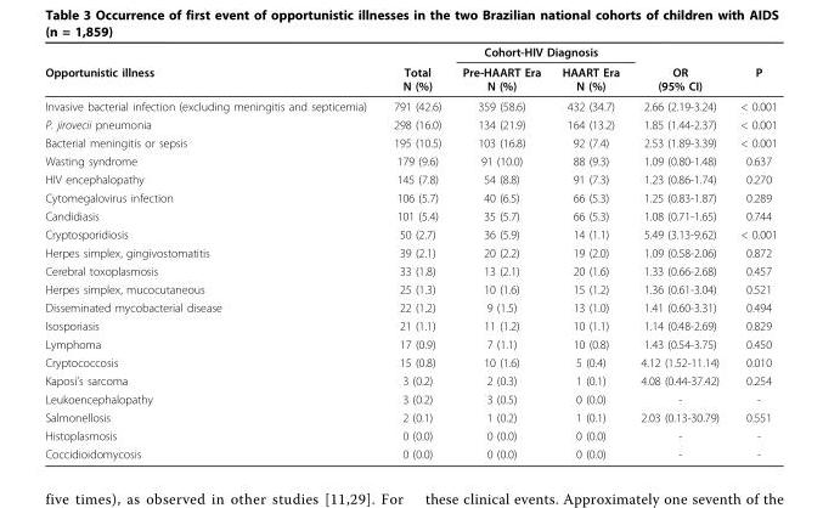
<table><thead><tr><td rowspan="2">Opportunistic illness</td><td rowspan="2">Total N (%)</td><td colspan="2">Cohort-HIV Diagnosis</td><td rowspan="2">OR (95% CI)</td><td rowspan="2">P</td></tr><tr><td>Pre-HAART Era N (%)</td><td>HAART Era N (%)</td></tr></thead><tbody><tr><td>Invasive bacterial infection (excluding meningitis and septicemia)</td><td>791 (42.6)</td><td>359 (58.6)</td><td>432 (34.7)</td><td>2.66 (2.19-3.24)</td><td>&lt; 0.001</td></tr><tr><td>P. jirovecii pneumonia</td><td>298 (16.0)</td><td>134 (21.9)</td><td>164 (13.2)</td><td>1.85 (1.44-2.37)</td><td>&lt; 0.001</td></tr><tr><td>Bacterial meningitis or sepsis</td><td>195 (10.5)</td><td>103 (16.8)</td><td>92 (7.4)</td><td>2.53 (1.89-3.39)</td><td>&lt; 0.001</td></tr><tr><td>Wasting syndrome</td><td>179 (9.6)</td><td>91 (10.0)</td><td>88 (9.3)</td><td>1.09 (0.80-1.48)</td><td>0.637</td></tr><tr><td>HIV encephalopathy</td><td>145 (7.8)</td><td>54 (8.8)</td><td>91 (7.3)</td><td>1.23 (0.86-1.74)</td><td>0.270</td></tr><tr><td>Cytomegalovirus infection</td><td>106 (5.7)</td><td>40 (6.5)</td><td>66 (5.3)</td><td>1.25 (0.83-1.87)</td><td>0.289</td></tr><tr><td>Candidiasis</td><td>101 (5.4)</td><td>35 (5.7)</td><td>66 (5.3)</td><td>1.08 (0.71-1.65)</td><td>0.744</td></tr><tr><td>Cryptosporidiosis</td><td>50 (2.7)</td><td>36 (5.9)</td><td>14 (1.1)</td><td>5.49 (3.13-9.62)</td><td>&lt; 0.001</td></tr><tr><td>Herpes simplex, gingivostomatitis</td><td>39 (2.1)</td><td>20 (2.2)</td><td>19 (2.0)</td><td>1.09 (0.58-2.06)</td><td>0.872</td></tr><tr><td>Cerebral toxoplasmosis</td><td>33 (1.8)</td><td>13 (2.1)</td><td>20 (1.6)</td><td>1.33 (0.66-2.68)</td><td>0.457</td></tr><tr><td>Herpes simplex, mucocutaneous</td><td>25 (1.3)</td><td>10 (1.6)</td><td>15 (1.2)</td><td>1.36 (0.61-3.04)</td><td>0.521</td></tr><tr><td>Disseminated mycobacterial disease</td><td>22 (1.2)</td><td>9 (1.5)</td><td>13 (1.0)</td><td>1.41 (0.60-3.31)</td><td>0.494</td></tr><tr><td>Isosporiasis</td><td>21 (1.1)</td><td>11 (1.2)</td><td>10 (1.1)</td><td>1.14 (0.48-2.69)</td><td>0.829</td></tr><tr><td>Lymphoma</td><td>17 (0.9)</td><td>7 (1.1)</td><td>10 (0.8)</td><td>1.43 (0.54-3.75)</td><td>0.450</td></tr><tr><td>Cryptococcosis</td><td>15 (0.8)</td><td>10 (1.6)</td><td>5 (0.4)</td><td>4.12 (1.52-11.14)</td><td>0.010</td></tr><tr><td>Kaposi’s sarcoma</td><td>3 (0.2)</td><td>2 (0.3)</td><td>1 (0.1)</td><td>4.08 (0.44-37.42)</td><td>0.254</td></tr><tr><td>Leukoencephalopathy</td><td>3 (0.2)</td><td>3 (0.5)</td><td>0 (0.0)</td><td>-</td><td>-</td></tr><tr><td>Salmonellosis</td><td>2 (0.1)</td><td>1 (0.2)</td><td>1 (0.1)</td><td>2.03 (0.13-30.79)</td><td>0.551</td></tr><tr><td>Histoplasmosis</td><td>0 (0.0)</td><td>0 (0.0)</td><td>0 (0.0)</td><td>-</td><td>-</td></tr><tr><td>Coccidioidomycosis</td><td>0 (0.0)</td><td>0 (0.0)</td><td>0 (0.0)</td><td>-</td><td>-</td></tr></tbody></table>